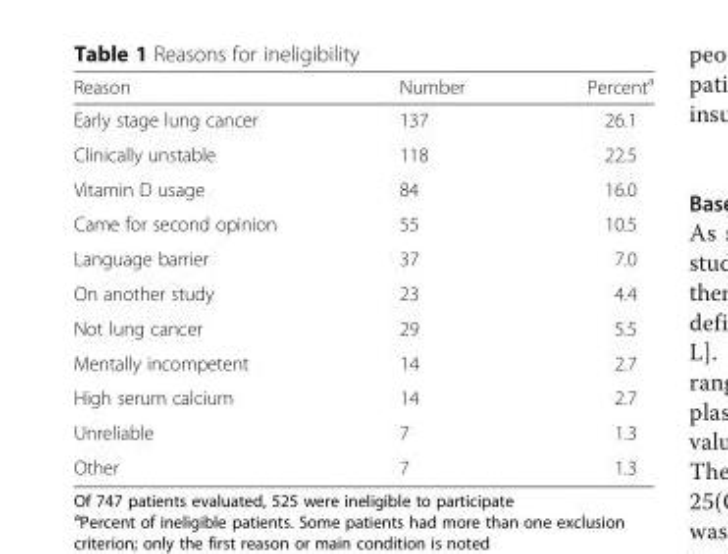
<table><thead><tr><td>Reason</td><td>Number</td><td>Percent<sup>a</sup></td></tr></thead><tbody><tr><td>Early stage lung cancer</td><td>137</td><td>26.1</td></tr><tr><td>Clinically unstable</td><td>118</td><td>22.5</td></tr><tr><td>Vitamin D usage</td><td>84</td><td>16.0</td></tr><tr><td>Came for second opinion</td><td>55</td><td>10.5</td></tr><tr><td>Language barrier</td><td>37</td><td>7.0</td></tr><tr><td>On another study</td><td>23</td><td>4.4</td></tr><tr><td>Not lung cancer</td><td>29</td><td>5.5</td></tr><tr><td>Mentally incompetent</td><td>14</td><td>2.7</td></tr><tr><td>High serum calcium</td><td>14</td><td>2.7</td></tr><tr><td>Unreliable</td><td>7</td><td>1.3</td></tr><tr><td>Other</td><td>7</td><td>1.3</td></tr></tbody></table>